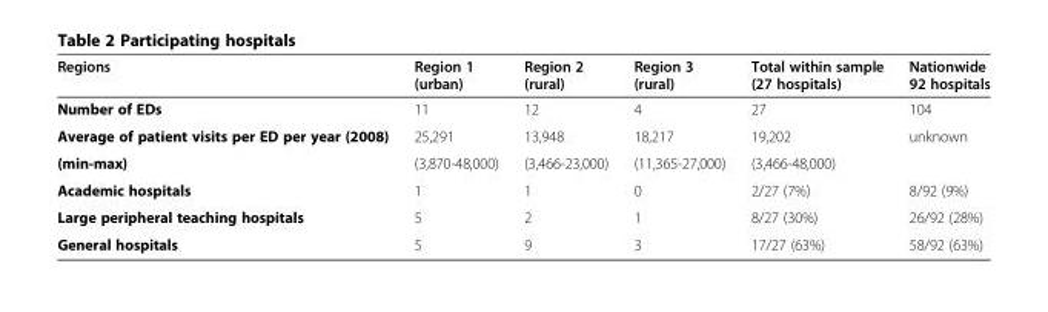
<table><thead><tr><td>Regions</td><td>Region 1 (urban)</td><td>Region 2 (rural)</td><td>Region 3 (rural)</td><td>Total within sample (27 hospitals)</td><td>Nationwide 92 hospitals</td></tr></thead><tbody><tr><td>Number of EDs</td><td>11</td><td>12</td><td>4</td><td>27</td><td>104</td></tr><tr><td>Average of patient visits per ED per year (2008)</td><td>25,291</td><td>13,948</td><td>18,217</td><td>19,202</td><td>unknown</td></tr><tr><td>(min-max)</td><td>(3,870-48,000)</td><td>(3,466-23,000)</td><td>(11,365-27,000)</td><td>(3,466-48,000)</td><td></td></tr><tr><td>Academic hospitals</td><td>1</td><td>1</td><td>0</td><td>2/27 (7%)</td><td>8/92 (9%)</td></tr><tr><td>Large peripheral teaching hospitals</td><td>5</td><td>2</td><td>1</td><td>8/27 (30%)</td><td>26/92 (28%)</td></tr><tr><td>General hospitals</td><td>5</td><td>9</td><td>3</td><td>17/27 (63%)</td><td>58/92 (63%)</td></tr></tbody></table>